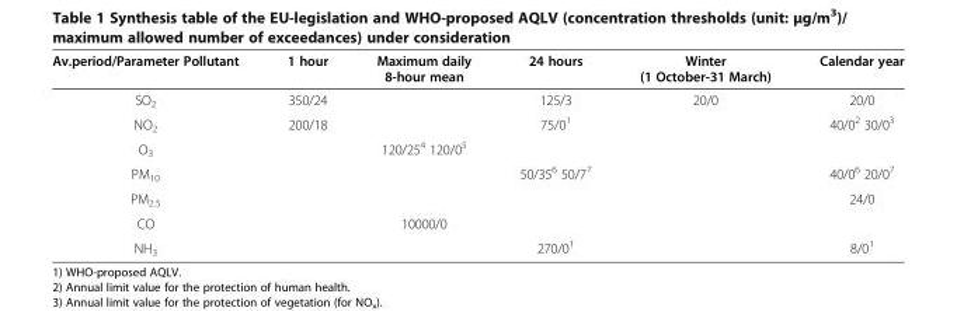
<table><thead><tr><td>Av.period/Parameter Pollutant</td><td>1 hour</td><td>Maximum daily 8-hour mean</td><td>24 hours</td><td>Winter (1 October-31 March)</td><td>Calendar year</td></tr></thead><tbody><tr><td>SO<sub>2</sub></td><td>350/24</td><td></td><td>125/3</td><td>20/0</td><td>20/0</td></tr><tr><td>NO<sub>2</sub></td><td>200/18</td><td></td><td>75/0<sup>1</sup></td><td></td><td>40/0<sup>2</sup> 30/0<sup>3</sup></td></tr><tr><td>O<sub>3</sub></td><td></td><td>120/25<sup>4</sup> 120/0<sup>5</sup></td><td></td><td></td><td></td></tr><tr><td>PM<sub>10</sub></td><td></td><td></td><td>50/35<sup>6</sup> 50/7<sup>7</sup></td><td></td><td>40/0<sup>6</sup> 20/0<sup>7</sup></td></tr><tr><td>PM<sub>2.5</sub></td><td></td><td></td><td></td><td></td><td>24/0</td></tr><tr><td>CO</td><td></td><td>10000/0</td><td></td><td></td><td></td></tr><tr><td>NH<sub>3</sub></td><td></td><td></td><td>270/0<sup>1</sup></td><td></td><td>8/0<sup>1</sup></td></tr></tbody></table>